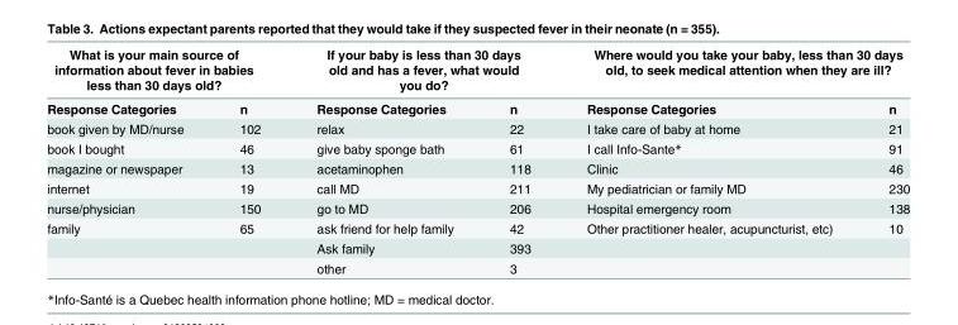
<table><thead><tr><td colspan="2">What is your main source of information about fever in babies less than 30 days old?</td><td colspan="2">If your baby is less than 30 days old and has a fever, what would you do?</td><td colspan="2">Where would you take your baby, less than 30 days old, to seek medical attention when they are ill?</td></tr><tr><td>Response Categories</td><td>n</td><td>Response Categories</td><td>n</td><td>Response Categories</td><td>n</td></tr></thead><tbody><tr><td>book given by MD/nurse</td><td>102</td><td>relax</td><td>22</td><td>I take care of baby at home</td><td>21</td></tr><tr><td>book I bought</td><td>46</td><td>give baby sponge bath</td><td>61</td><td>I call Info-Sante*</td><td>91</td></tr><tr><td>magazine or newspaper</td><td>13</td><td>acetaminophen</td><td>118</td><td>Clinic</td><td>46</td></tr><tr><td>internet</td><td>19</td><td>call MD</td><td>211</td><td>My pediatrician or family MD</td><td>230</td></tr><tr><td>nurse/physician</td><td>150</td><td>go to MD</td><td>206</td><td>Hospital emergency room</td><td>138</td></tr><tr><td rowspan="3">family</td><td>65</td><td>ask friend for help family</td><td>42</td><td>Other practitioner healer, acupuncturist, etc)</td><td>10</td></tr><tr><td></td><td>Ask family</td><td>393</td><td></td><td></td></tr><tr><td></td><td>other</td><td>3</td><td></td><td></td></tr></tbody></table>